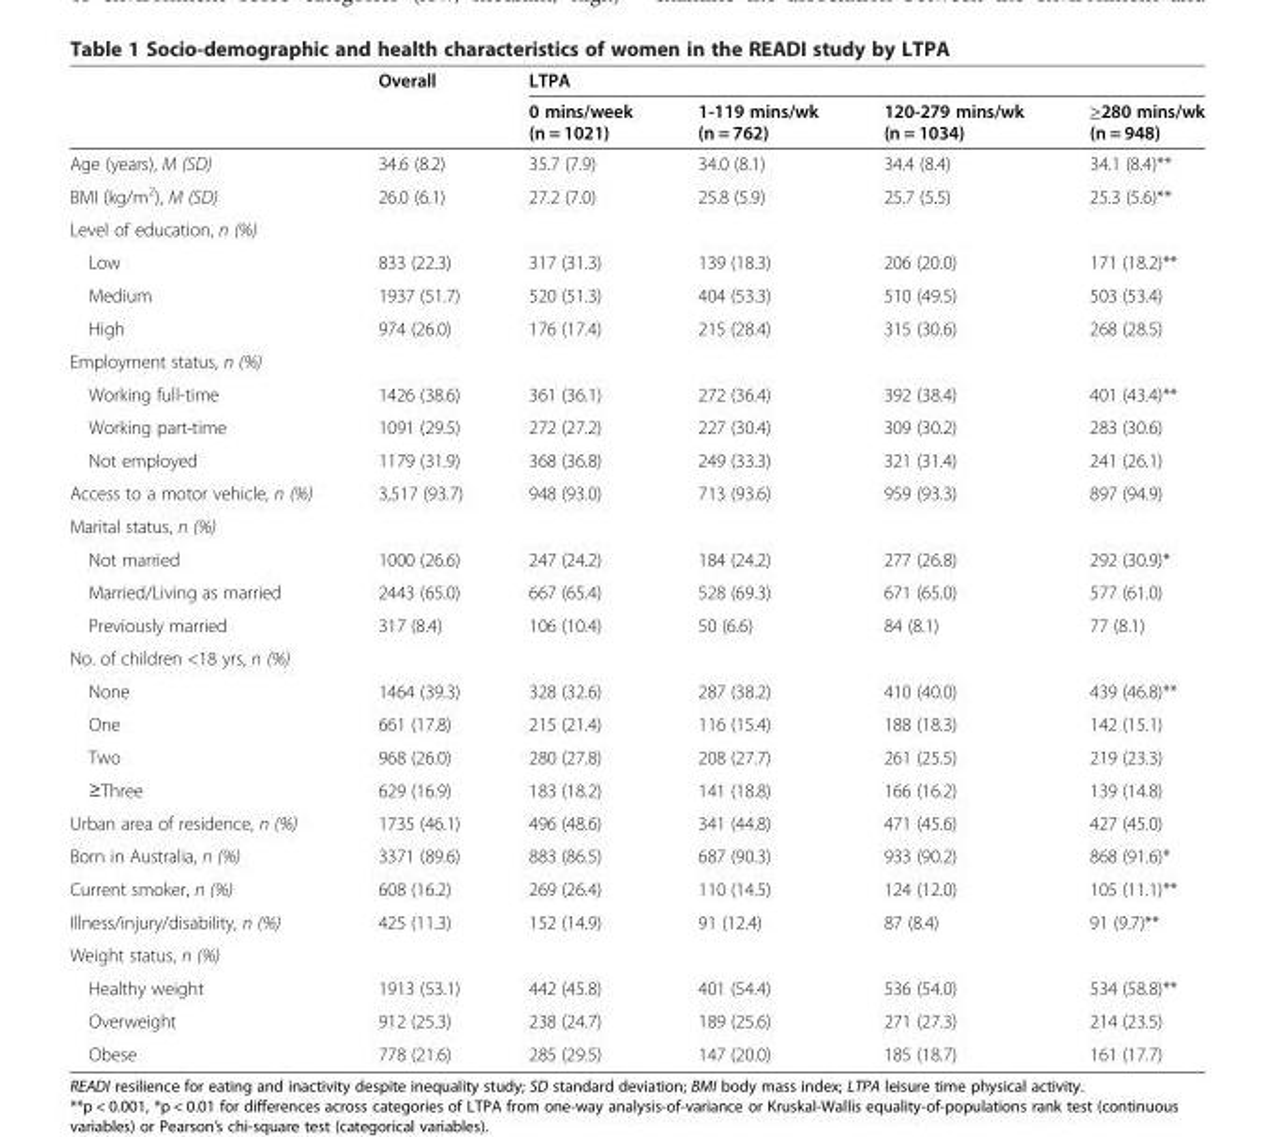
<table><thead><tr><td rowspan="2"></td><td rowspan="2">Overall</td><td colspan="4">LTPA</td></tr><tr><td>0 mins/week (n = 1021)</td><td>1-119 mins/wk (n = 762)</td><td>120-279 mins/wk (n = 1034)</td><td>≥280 mins/wk (n = 948)</td></tr></thead><tbody><tr><td>Age (years), M (SD)</td><td>34.6 (8.2)</td><td>35.7 (7.9)</td><td>34.0 (8.1)</td><td>34.4 (8.4)</td><td>34.1 (8.4)**</td></tr><tr><td>BMI (kg/m<sup>2</sup>), M (SD)</td><td>26.0 (6.1)</td><td>27.2 (7.0)</td><td>25.8 (5.9)</td><td>25.7 (5.5)</td><td>25.3 (5.6)**</td></tr><tr><td colspan="6">Level of education, n (%)</td></tr><tr><td>Low</td><td>833 (22.3)</td><td>317 (31.3)</td><td>139 (18.3)</td><td>206 (20.0)</td><td>171 (18.2)**</td></tr><tr><td>Medium</td><td>1937 (51.7)</td><td>520 (51.3)</td><td>404 (53.3)</td><td>510 (49.5)</td><td>503 (53.4)</td></tr><tr><td>High</td><td>974 (26.0)</td><td>176 (17.4)</td><td>215 (28.4)</td><td>315 (30.6)</td><td>268 (28.5)</td></tr><tr><td colspan="6">Employment status, n (%)</td></tr><tr><td>Working full-time</td><td>1426 (38.6)</td><td>361 (36.1)</td><td>272 (36.4)</td><td>392 (38.4)</td><td>401 (43.4)**</td></tr><tr><td>Working part-time</td><td>1091 (29.5)</td><td>272 (27.2)</td><td>227 (30.4)</td><td>309 (30.2)</td><td>283 (30.6)</td></tr><tr><td>Not employed</td><td>1179 (31.9)</td><td>368 (36.8)</td><td>249 (33.3)</td><td>321 (31.4)</td><td>241 (26.1)</td></tr><tr><td>Access to a motor vehicle, n (%)</td><td>3,517 (93.7)</td><td>948 (93.0)</td><td>713 (93.6)</td><td>959 (93.3)</td><td>897 (94.9)</td></tr><tr><td colspan="6">Marital status, n (%)</td></tr><tr><td>Not married</td><td>1000 (26.6)</td><td>247 (24.2)</td><td>184 (24.2)</td><td>277 (26.8)</td><td>292 (30.9)*</td></tr><tr><td>Married/Living as married</td><td>2443 (65.0)</td><td>667 (65.4)</td><td>528 (69.3)</td><td>671 (65.0)</td><td>577 (61.0)</td></tr><tr><td>Previously married</td><td>317 (8.4)</td><td>106 (10.4)</td><td>50 (6.6)</td><td>84 (8.1)</td><td>77 (8.1)</td></tr><tr><td colspan="6">No. of children &lt;18 yrs, n (%)</td></tr><tr><td>None</td><td>1464 (39.3)</td><td>328 (32.6)</td><td>287 (38.2)</td><td>410 (40.0)</td><td>439 (46.8)**</td></tr><tr><td>One</td><td>661 (17.8)</td><td>215 (21.4)</td><td>116 (15.4)</td><td>188 (18.3)</td><td>142 (15.1)</td></tr><tr><td>Two</td><td>968 (26.0)</td><td>280 (27.8)</td><td>208 (27.7)</td><td>261 (25.5)</td><td>219 (23.3)</td></tr><tr><td>≥Three</td><td>629 (16.9)</td><td>183 (18.2)</td><td>141 (18.8)</td><td>166 (16.2)</td><td>139 (14.8)</td></tr><tr><td>Urban area of residence, n (%)</td><td>1735 (46.1)</td><td>496 (48.6)</td><td>341 (44.8)</td><td>471 (45.6)</td><td>427 (45.0)</td></tr><tr><td>Born in Australia, n (%)</td><td>3371 (89.6)</td><td>883 (86.5)</td><td>687 (90.3)</td><td>933 (90.2)</td><td>868 (91.6)*</td></tr><tr><td>Current smoker, n (%)</td><td>608 (16.2)</td><td>269 (26.4)</td><td>110 (14.5)</td><td>124 (12.0)</td><td>105 (11.1)**</td></tr><tr><td>Illness/injury/disability, n (%)</td><td>425 (11.3)</td><td>152 (14.9)</td><td>91 (12.4)</td><td>87 (8.4)</td><td>91 (9.7)**</td></tr><tr><td colspan="6">Weight status, n (%)</td></tr><tr><td>Healthy weight</td><td>1913 (53.1)</td><td>442 (45.8)</td><td>401 (54.4)</td><td>536 (54.0)</td><td>534 (58.8)**</td></tr><tr><td>Overweight</td><td>912 (25.3)</td><td>238 (24.7)</td><td>189 (25.6)</td><td>271 (27.3)</td><td>214 (23.5)</td></tr><tr><td>Obese</td><td>778 (21.6)</td><td>285 (29.5)</td><td>147 (20.0)</td><td>185 (18.7)</td><td>161 (17.7)</td></tr></tbody></table>